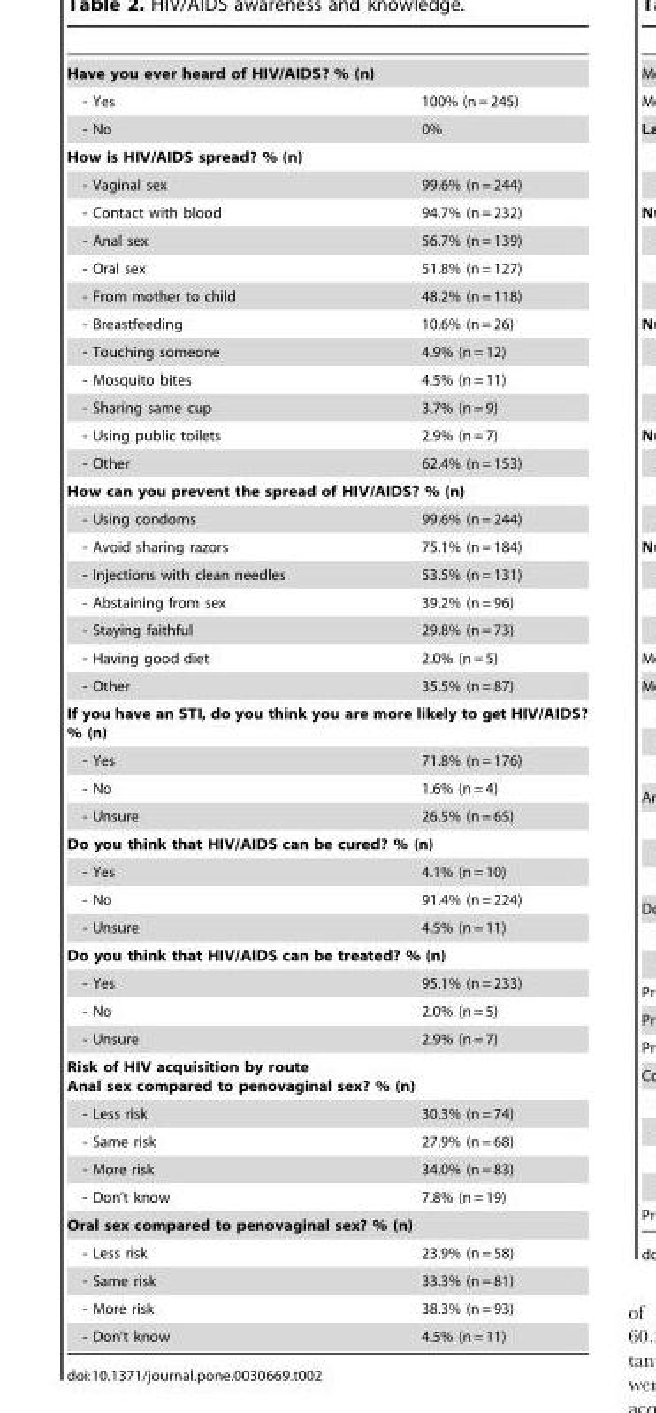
<table><tbody><tr><td colspan="2">Have you ever heard of HIV/AIDS? % (n)</td></tr><tr><td>- Yes</td><td>100% (n = 245)</td></tr><tr><td>- No</td><td>0%</td></tr><tr><td colspan="2">How is HIV/AIDS spread? % (n)</td></tr><tr><td>- Vaginal sex</td><td>99.6% (n = 244)</td></tr><tr><td>- Contact with blood</td><td>94.7% (n = 232)</td></tr><tr><td>- Anal sex</td><td>56.7% (n = 139)</td></tr><tr><td>- Oral sex</td><td>51.8% (n = 127)</td></tr><tr><td>- From mother to child</td><td>48.2% (n = 118)</td></tr><tr><td>- Breastfeeding</td><td>10.6% (n = 26)</td></tr><tr><td>- Touching someone</td><td>4.9% (n = 12)</td></tr><tr><td>- Mosquito bites</td><td>4.5% (n = 11)</td></tr><tr><td>- Sharing same cup</td><td>3.7% (n = 9)</td></tr><tr><td>- Using public toilets</td><td>2.9% (n = 7)</td></tr><tr><td>- Other</td><td>62.4% (n = 153)</td></tr><tr><td colspan="2">How can you prevent the spread of HIV/AIDS? % (n)</td></tr><tr><td>- Using condoms</td><td>99.6% (n = 244)</td></tr><tr><td>- Avoid sharing razors</td><td>75.1% (n = 184)</td></tr><tr><td>- Injections with clean needles</td><td>53.5% (n = 131)</td></tr><tr><td>- Abstaining from sex</td><td>39.2% (n = 96)</td></tr><tr><td>- Staying faithful</td><td>29.8% (n = 73)</td></tr><tr><td>- Having good diet</td><td>2.0% (n = 5)</td></tr><tr><td>- Other</td><td>35.5% (n = 87)</td></tr><tr><td colspan="2">If you have an STI, do you think you are more likely to get HIV/AIDS? % (n)</td></tr><tr><td>- Yes</td><td>71.8% (n = 176)</td></tr><tr><td>- No</td><td>1.6% (n = 4)</td></tr><tr><td>- Unsure</td><td>26.5% (n = 65)</td></tr><tr><td colspan="2">Do you think that HIV/AIDS can be cured? % (n)</td></tr><tr><td>- Yes</td><td>4.1% (n = 10)</td></tr><tr><td>- No</td><td>91.4% (n = 224)</td></tr><tr><td>- Unsure</td><td>4.5% (n = 11)</td></tr><tr><td colspan="2">Do you think that HIV/AIDS can be treated? % (n)</td></tr><tr><td>- Yes</td><td>95.1% (n = 233)</td></tr><tr><td>- No</td><td>2.0% (n = 5)</td></tr><tr><td>- Unsure</td><td>2.9% (n = 7)</td></tr><tr><td colspan="2">Risk of HIV acquisition by route Anal sex compared to penovaginal sex? % (n)</td></tr><tr><td>- Less risk</td><td>30.3% (n = 74)</td></tr><tr><td>- Same risk</td><td>27.9% (n = 68)</td></tr><tr><td>- More risk</td><td>34.0% (n = 83)</td></tr><tr><td>- Don’t know</td><td>7.8% (n = 19)</td></tr><tr><td colspan="2">Oral sex compared to penovaginal sex? % (n)</td></tr><tr><td>- Less risk</td><td>23.9% (n = 58)</td></tr><tr><td>- Same risk</td><td>33.3% (n = 81)</td></tr><tr><td>- More risk</td><td>38.3% (n = 93)</td></tr><tr><td>- Don’t know</td><td>4.5% (n = 11)</td></tr></tbody></table>